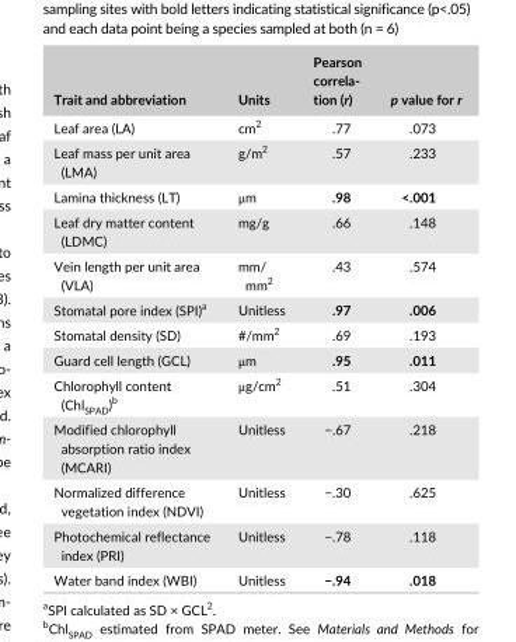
<table><thead><tr><td>Trait and abbreviation</td><td>Units</td><td>Pearson correla- tion (r)</td><td>p value for r</td></tr></thead><tbody><tr><td>Leaf area (LA)</td><td>cm<sup>2</sup></td><td>.77</td><td>.073</td></tr><tr><td>Leaf mass per unit area (LMA)</td><td>g/m<sup>2</sup></td><td>.57</td><td>.233</td></tr><tr><td>Lamina thickness (LT)</td><td>μm</td><td>.98</td><td>&lt;.001</td></tr><tr><td>Leaf dry matter content (LDMC)</td><td>mg/g</td><td>.66</td><td>.148</td></tr><tr><td>Vein length per unit area (VLA)</td><td>mm/ mm<sup>2</sup></td><td>.43</td><td>.574</td></tr><tr><td>Stomatal pore index (SPI)<sup>a</sup></td><td>Unitless</td><td>.97</td><td>.006</td></tr><tr><td>Stomatal density (SD)</td><td>#/mm<sup>2</sup></td><td>.69</td><td>.193</td></tr><tr><td>Guard cell length (GCL)</td><td>μm</td><td>.95</td><td>.011</td></tr><tr><td>Chlorophyll content (Chl<sub>SPAD</sub>)<sup>b</sup></td><td>μg/cm<sup>2</sup></td><td>.51</td><td>.304</td></tr><tr><td>Modified chlorophyll absorption ratio index (MCARI)</td><td>Unitless</td><td>−.67</td><td>.218</td></tr><tr><td>Normalized difference vegetation index (NDVI)</td><td>Unitless</td><td>−.30</td><td>.625</td></tr><tr><td>Photochemical reflectance index (PRI)</td><td>Unitless</td><td>−.78</td><td>.118</td></tr><tr><td>Water band index (WBI)</td><td>Unitless</td><td>−.94</td><td>.018</td></tr></tbody></table>